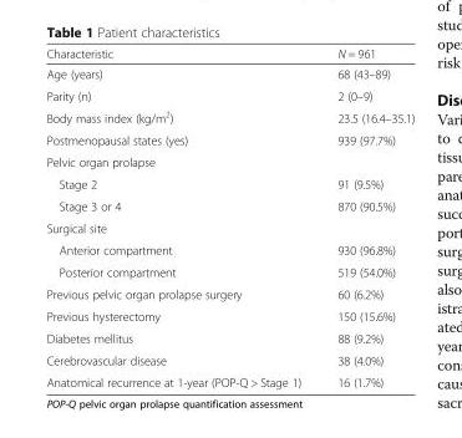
<table><thead><tr><td>Characteristic</td><td>N = 961</td></tr></thead><tbody><tr><td>Age (years)</td><td>68 (43–89)</td></tr><tr><td>Parity (n)</td><td>2 (0–9)</td></tr><tr><td>Body mass index (kg/m<sup>2</sup>)</td><td>23.5 (16.4–35.1)</td></tr><tr><td>Postmenopausal states (yes)</td><td>939 (97.7%)</td></tr><tr><td colspan="2">Pelvic organ prolapse</td></tr><tr><td>Stage 2</td><td>91 (9.5%)</td></tr><tr><td>Stage 3 or 4</td><td>870 (90.5%)</td></tr><tr><td colspan="2">Surgical site</td></tr><tr><td>Anterior compartment</td><td>930 (96.8%)</td></tr><tr><td>Posterior compartment</td><td>519 (54.0%)</td></tr><tr><td>Previous pelvic organ prolapse surgery</td><td>60 (6.2%)</td></tr><tr><td>Previous hysterectomy</td><td>150 (15.6%)</td></tr><tr><td>Diabetes mellitus</td><td>88 (9.2%)</td></tr><tr><td>Cerebrovascular disease</td><td>38 (4.0%)</td></tr><tr><td>Anatomical recurrence at 1-year (POP-Q &gt; Stage 1)</td><td>16 (1.7%)</td></tr></tbody></table>